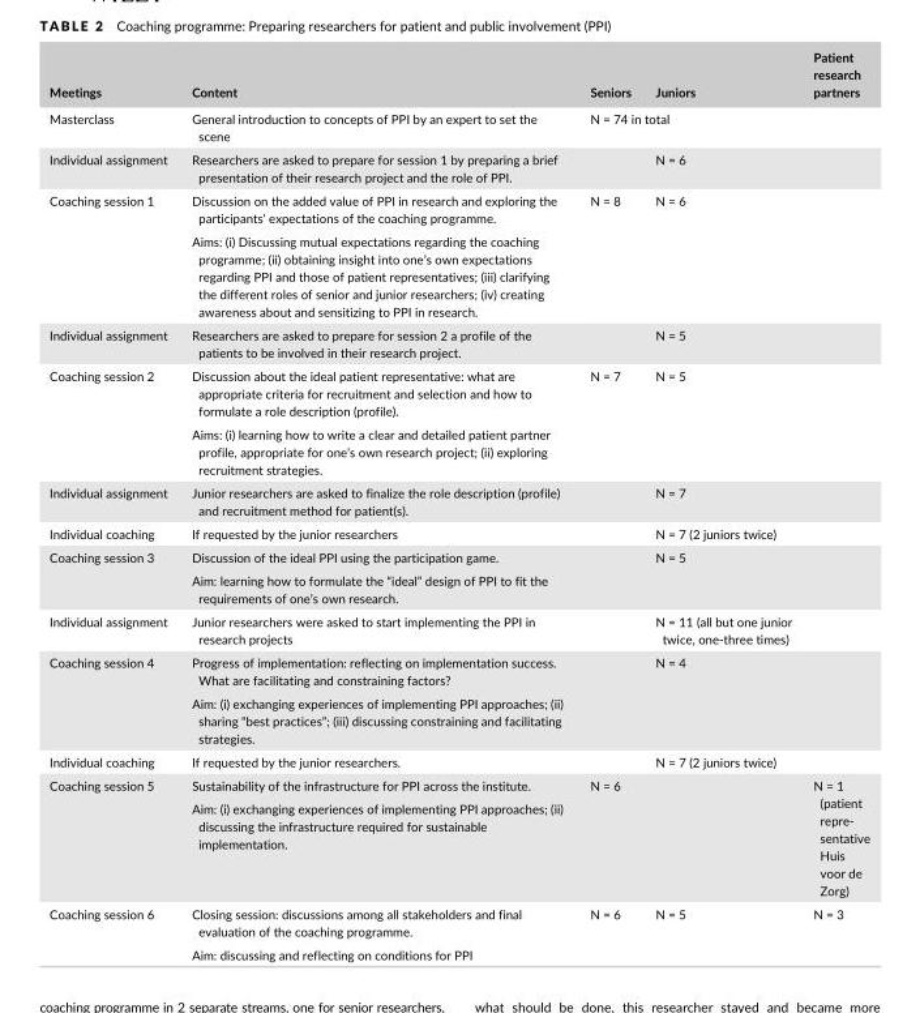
<table><thead><tr><td>Meetings</td><td>Content</td><td>Seniors</td><td>Juniors</td><td>Patient research partners</td></tr></thead><tbody><tr><td>Masterclass</td><td>General introduction to concepts of PPI by an expert to set the scene</td><td colspan="2">N = 74 in total</td><td></td></tr><tr><td>Individual assignment</td><td>Researchers are asked to prepare for session 1 by preparing a brief presentation of their research project and the role of PPI.</td><td></td><td>N = 6</td><td></td></tr><tr><td rowspan="2">Coaching session 1</td><td>Discussion on the added value of PPI in research and exploring the participants’ expectations of the coaching programme.</td><td rowspan="2">N = 8</td><td rowspan="2">N = 6</td><td rowspan="2"></td></tr><tr><td>Aims: (i) Discussing mutual expectations regarding the coaching programme; (ii) obtaining insight into one’s own expectations regarding PPI and those of patient representatives; (iii) clarifying the different roles of senior and junior researchers; (iv) creating awareness about and sensitizing to PPI in research.</td></tr><tr><td>Individual assignment</td><td>Researchers are asked to prepare for session 2 a profile of the patients to be involved in their research project.</td><td></td><td>N = 5</td><td></td></tr><tr><td rowspan="2">Coaching session 2</td><td>Discussion about the ideal patient representative: what are appropriate criteria for recruitment and selection and how to formulate a role description (profile).</td><td rowspan="2">N = 7</td><td rowspan="2">N = 5</td><td rowspan="2"></td></tr><tr><td>Aims: (i) learning how to write a clear and detailed patient partner profile, appropriate for one’s own research project; (ii) exploring recruitment strategies.</td></tr><tr><td>Individual assignment</td><td>Junior researchers are asked to finalize the role description (profile) and recruitment method for patient(s).</td><td></td><td>N = 7</td><td></td></tr><tr><td>Individual coaching</td><td>If requested by the junior researchers</td><td></td><td>N = 7 (2 juniors twice)</td><td></td></tr><tr><td rowspan="2">Coaching session 3</td><td>Discussion of the ideal PPI using the participation game.</td><td rowspan="2"></td><td rowspan="2">N = 5</td><td rowspan="2"></td></tr><tr><td>Aim: learning how to formulate the “ideal” design of PPI to fit the requirements of one’s own research.</td></tr><tr><td>Individual assignment</td><td>Junior researchers were asked to start implementing the PPI in research projects</td><td></td><td>N = 11 (all but one junior twice, one- three times)</td><td></td></tr><tr><td rowspan="2">Coaching session 4</td><td>Progress of implementation: reflecting on implementation success. What are facilitating and constraining factors?</td><td rowspan="2"></td><td rowspan="2">N = 4</td><td rowspan="2"></td></tr><tr><td>Aim: (i) exchanging experiences of implementing PPI approaches; (ii) sharing “best practices”; (iii) discussing constraining and facilitating strategies.</td></tr><tr><td>Individual coaching</td><td>If requested by the junior researchers.</td><td></td><td>N = 7 (2 juniors twice)</td><td></td></tr><tr><td rowspan="2">Coaching session 5</td><td>Sustainability of the infrastructure for PPI across the institute.</td><td rowspan="2">N = 6</td><td rowspan="2"></td><td rowspan="2">N = 1 (patient repre- sentative Huis voor de Zorg)</td></tr><tr><td>Aim: (i) exchanging experiences of implementing PPI approaches; (ii) discussing the infrastructure required for sustainable implementation.</td></tr><tr><td rowspan="2">Coaching session 6</td><td>Closing session: discussions among all stakeholders and final evaluation of the coaching programme.</td><td rowspan="2">N = 6</td><td rowspan="2">N = 5</td><td rowspan="2">N = 3</td></tr><tr><td>Aim: discussing and reflecting on conditions for PPI</td></tr></tbody></table>